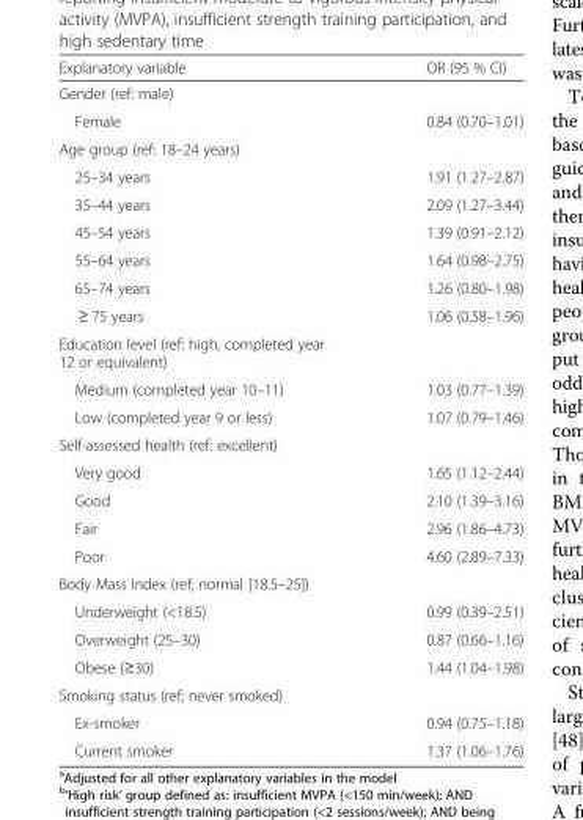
<table><thead><tr><td>Explanatory variable</td><td>OR (95 % CI)</td></tr></thead><tbody><tr><td colspan="2">Gender (ref: male)</td></tr><tr><td>Female</td><td>0.84 (0.70–1.01)</td></tr><tr><td colspan="2">Age group (ref: 18–24 years)</td></tr><tr><td>25–34 years</td><td>1.91 (1.27–2.87)</td></tr><tr><td>35–44 years</td><td>2.09 (1.27–3.44)</td></tr><tr><td>45–54 years</td><td>1.39 (0.91–2.12)</td></tr><tr><td>55–64 years</td><td>1.64 (0.98–2.75)</td></tr><tr><td>65–74 years</td><td>1.26 (0.80–1.98)</td></tr><tr><td>≥ 75 years</td><td>1.06 (0.58–1.96)</td></tr><tr><td colspan="2">Education level (ref: high, completed year 12 or equivalent)</td></tr><tr><td>Medium (completed year 10–11)</td><td>1.03 (0.77–1.39)</td></tr><tr><td>Low (completed year 9 or less)</td><td>1.07 (0.79–1.46)</td></tr><tr><td colspan="2">Self-assessed health (ref: excellent)</td></tr><tr><td>Very good</td><td>1.65 (1.12–2.44)</td></tr><tr><td>Good</td><td>2.10 (1.39–3.16)</td></tr><tr><td>Fair</td><td>2.96 (1.86–4.73)</td></tr><tr><td>Poor</td><td>4.60 (2.89–7.33)</td></tr><tr><td colspan="2">Body Mass Index (ref; normal [18.5–25])</td></tr><tr><td>Underweight (&lt;18.5)</td><td>0.99 (0.39–2.51)</td></tr><tr><td>Overweight (25–30)</td><td>0.87 (0.66–1.16)</td></tr><tr><td>Obese (≥30)</td><td>1.44 (1.04–1.98)</td></tr><tr><td colspan="2">Smoking status (ref; never smoked)</td></tr><tr><td>Ex-smoker</td><td>0.94 (0.75–1.18)</td></tr><tr><td>Current smoker</td><td>1.37 (1.06–1.76)</td></tr></tbody></table>